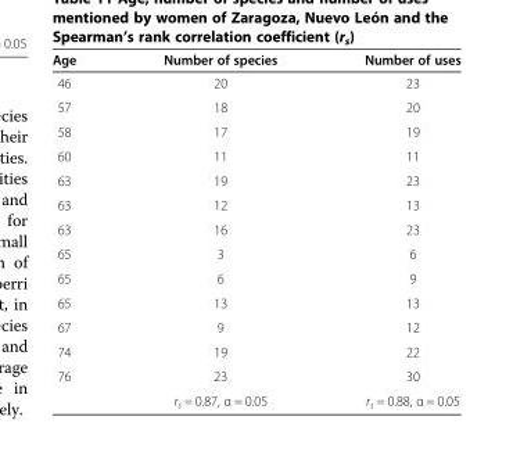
<table><thead><tr><td>Age</td><td>Number of species</td><td>Number of uses</td></tr></thead><tbody><tr><td>46</td><td>20</td><td>23</td></tr><tr><td>57</td><td>18</td><td>20</td></tr><tr><td>58</td><td>17</td><td>19</td></tr><tr><td>60</td><td>11</td><td>11</td></tr><tr><td>63</td><td>19</td><td>23</td></tr><tr><td>63</td><td>12</td><td>13</td></tr><tr><td>63</td><td>16</td><td>23</td></tr><tr><td>65</td><td>3</td><td>6</td></tr><tr><td>65</td><td>6</td><td>9</td></tr><tr><td>65</td><td>13</td><td>13</td></tr><tr><td>67</td><td>9</td><td>12</td></tr><tr><td>74</td><td>19</td><td>22</td></tr><tr><td rowspan="2">76</td><td>23</td><td>30</td></tr><tr><td>r<sub>s</sub> = 0.87, α = 0.05</td><td>r<sub>s</sub> = 0.88, α = 0.05</td></tr></tbody></table>